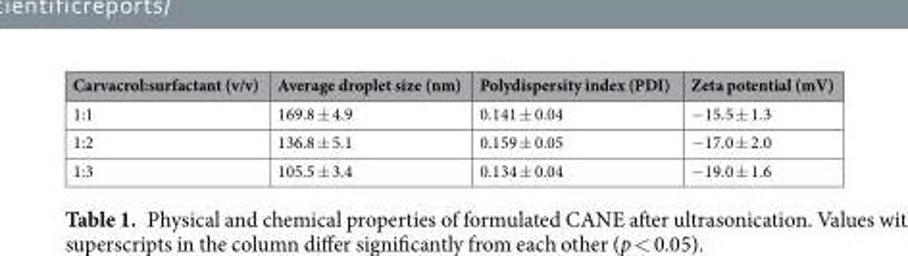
<table><thead><tr><td>Carvacrol:surfactant (v/v)</td><td>Average droplet size (nm)</td><td>Polydispersity index (PDI)</td><td>Zeta potential (mV)</td></tr></thead><tbody><tr><td>1:1</td><td>169.8 ± 4.9</td><td>0.141 ± 0.04</td><td>−15.5 ± 1.3</td></tr><tr><td>1:2</td><td>136.8 ± 5.1</td><td>0.159 ± 0.05</td><td>−17.0 ± 2.0</td></tr><tr><td>1:3</td><td>105.5 ± 3.4</td><td>0.134 ± 0.04</td><td>−19.0 ± 1.6</td></tr></tbody></table>